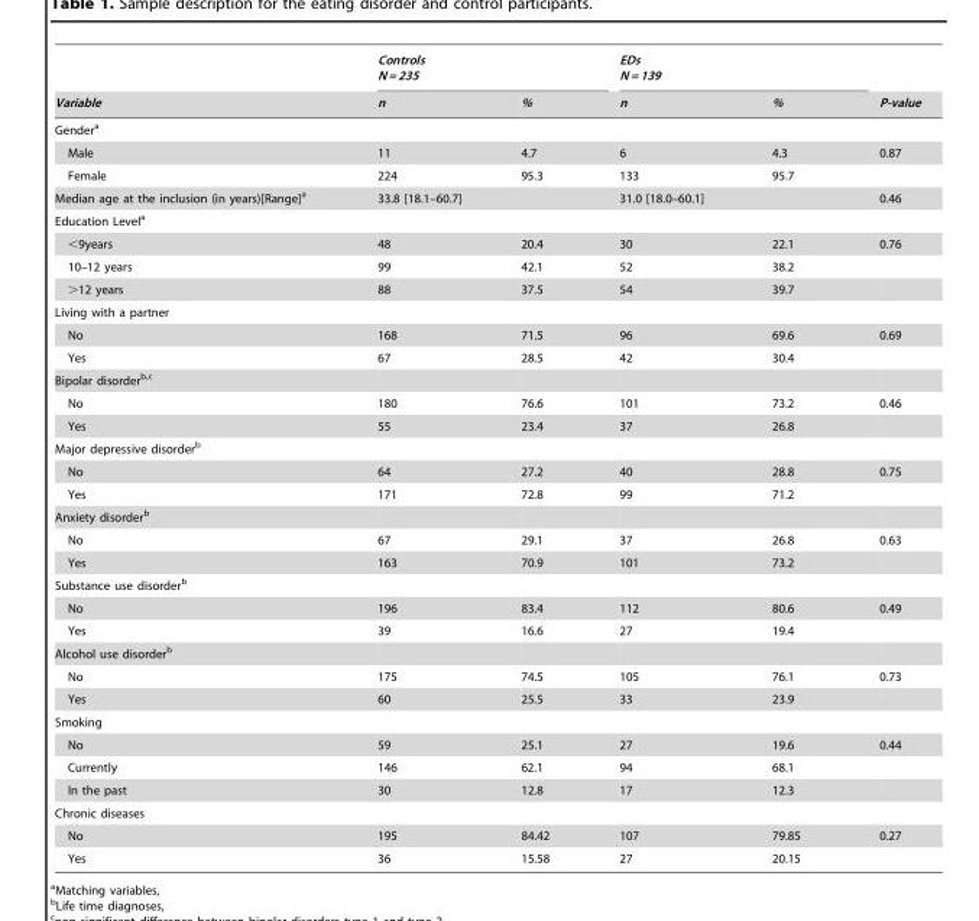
<table><thead><tr><td rowspan="2">Variable</td><td colspan="2">Controls N = 235</td><td colspan="2">EDs N = 139</td><td rowspan="2">P-value</td></tr><tr><td>n</td><td>%</td><td>n</td><td>%</td></tr></thead><tbody><tr><td colspan="6">Gender<sup>a</sup></td></tr><tr><td>Male</td><td>11</td><td>4.7</td><td>6</td><td>4.3</td><td>0.87</td></tr><tr><td>Female</td><td>224</td><td>95.3</td><td>133</td><td>95.7</td><td></td></tr><tr><td>Median age at the inclusion (in years)[Range]<sup>a</sup></td><td colspan="2">33.8 [18.1–60.7]</td><td colspan="2">31.0 [18.0–60.1]</td><td>0.46</td></tr><tr><td colspan="6">Education Level<sup>a</sup></td></tr><tr><td>&lt;9years</td><td>48</td><td>20.4</td><td>30</td><td>22.1</td><td>0.76</td></tr><tr><td>10–12 years</td><td>99</td><td>42.1</td><td>52</td><td>38.2</td><td></td></tr><tr><td>&gt;12 years</td><td>88</td><td>37.5</td><td>54</td><td>39.7</td><td></td></tr><tr><td colspan="6">Living with a partner</td></tr><tr><td>No</td><td>168</td><td>71.5</td><td>96</td><td>69.6</td><td>0.69</td></tr><tr><td>Yes</td><td>67</td><td>28.5</td><td>42</td><td>30.4</td><td></td></tr><tr><td colspan="6">Bipolar disorder<sup>b,</sup>c</td></tr><tr><td>No</td><td>180</td><td>76.6</td><td>101</td><td>73.2</td><td>0.46</td></tr><tr><td>Yes</td><td>55</td><td>23.4</td><td>37</td><td>26.8</td><td></td></tr><tr><td colspan="6">Major depressive disorder<sup>b</sup></td></tr><tr><td>No</td><td>64</td><td>27.2</td><td>40</td><td>28.8</td><td>0.75</td></tr><tr><td>Yes</td><td>171</td><td>72.8</td><td>99</td><td>71.2</td><td></td></tr><tr><td colspan="6">Anxiety disorder<sup>b</sup></td></tr><tr><td>No</td><td>67</td><td>29.1</td><td>37</td><td>26.8</td><td>0.63</td></tr><tr><td>Yes</td><td>163</td><td>70.9</td><td>101</td><td>73.2</td><td></td></tr><tr><td colspan="6">Substance use disorder<sup>b</sup></td></tr><tr><td>No</td><td>196</td><td>83.4</td><td>112</td><td>80.6</td><td>0.49</td></tr><tr><td>Yes</td><td>39</td><td>16.6</td><td>27</td><td>19.4</td><td></td></tr><tr><td colspan="6">Alcohol use disorder<sup>b</sup></td></tr><tr><td>No</td><td>175</td><td>74.5</td><td>105</td><td>76.1</td><td>0.73</td></tr><tr><td>Yes</td><td>60</td><td>25.5</td><td>33</td><td>23.9</td><td></td></tr><tr><td colspan="6">Smoking</td></tr><tr><td>No</td><td>59</td><td>25.1</td><td>27</td><td>19.6</td><td>0.44</td></tr><tr><td>Currently</td><td>146</td><td>62.1</td><td>94</td><td>68.1</td><td></td></tr><tr><td>In the past</td><td>30</td><td>12.8</td><td>17</td><td>12.3</td><td></td></tr><tr><td colspan="6">Chronic diseases</td></tr><tr><td>No</td><td>195</td><td>84.42</td><td>107</td><td>79.85</td><td>0.27</td></tr><tr><td>Yes</td><td>36</td><td>15.58</td><td>27</td><td>20.15</td><td></td></tr></tbody></table>